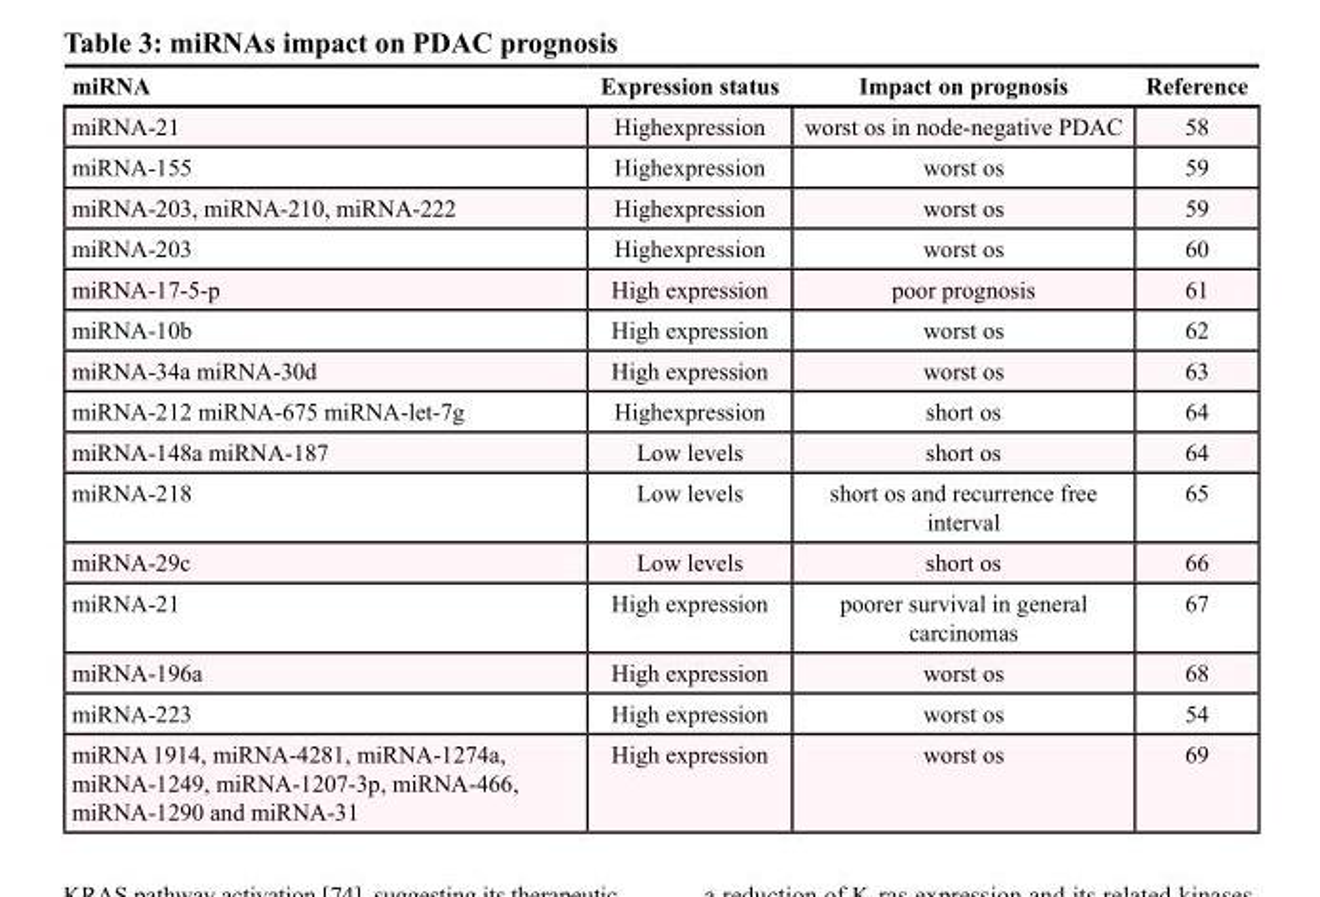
<table><thead><tr><td>miRNA</td><td>Expression status</td><td>Impact on prognosis</td><td>Reference</td></tr></thead><tbody><tr><td>miRNA-21</td><td>Highexpression</td><td>worst os in node-negative PDAC</td><td>58</td></tr><tr><td>miRNA-155</td><td>Highexpression</td><td>worst os</td><td>59</td></tr><tr><td>miRNA-203, miRNA-210, miRNA-222</td><td>Highexpression</td><td>worst os</td><td>59</td></tr><tr><td>miRNA-203</td><td>Highexpression</td><td>worst os</td><td>60</td></tr><tr><td>miRNA-17-5-p</td><td>High expression</td><td>poor prognosis</td><td>61</td></tr><tr><td>miRNA-10b</td><td>High expression</td><td>worst os</td><td>62</td></tr><tr><td>miRNA-34a miRNA-30d</td><td>High expression</td><td>worst os</td><td>63</td></tr><tr><td>miRNA-212 miRNA-675 miRNA-let-7g</td><td>Highexpression</td><td>short os</td><td>64</td></tr><tr><td>miRNA-148a miRNA-187</td><td>Low levels</td><td>short os</td><td>64</td></tr><tr><td>miRNA-218</td><td>Low levels</td><td>short os and recurrence free interval</td><td>65</td></tr><tr><td>miRNA-29c</td><td>Low levels</td><td>short os</td><td>66</td></tr><tr><td>miRNA-21</td><td>High expression</td><td>poorer survival in general carcinomas</td><td>67</td></tr><tr><td>miRNA-196a</td><td>High expression</td><td>worst os</td><td>68</td></tr><tr><td>miRNA-223</td><td>High expression</td><td>worst os</td><td>54</td></tr><tr><td>miRNA 1914, miRNA-4281, miRNA-1274a, miRNA-1249, miRNA-1207-3p, miRNA-466, miRNA-1290 and miRNA-31</td><td>High expression</td><td>worst os</td><td>69</td></tr></tbody></table>